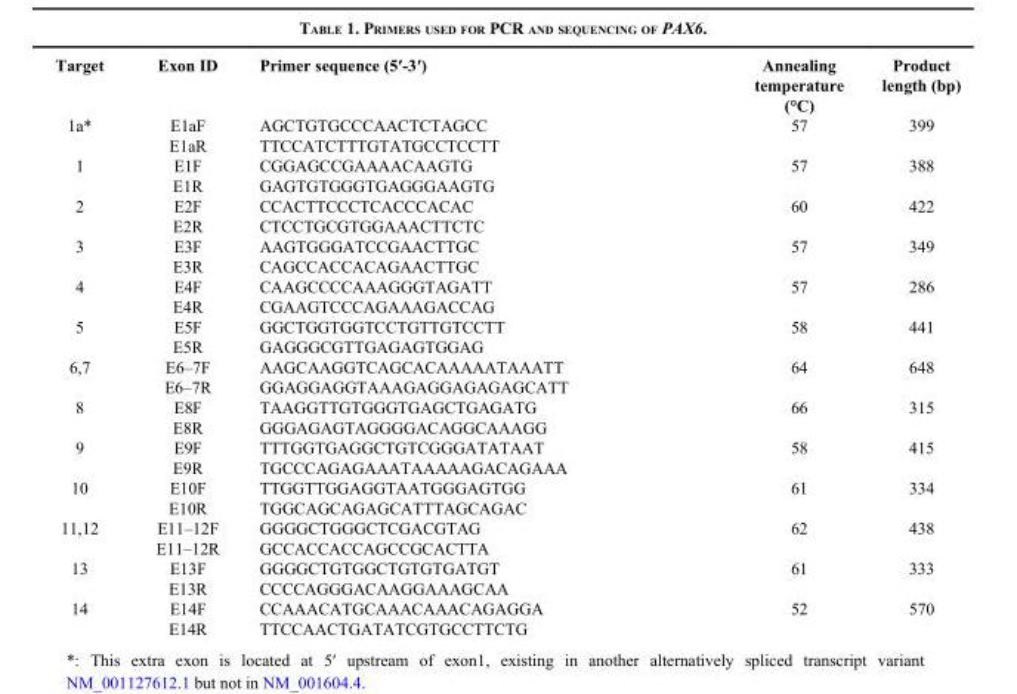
<table><thead><tr><td>Target</td><td>Exon ID</td><td>Primer sequence (5′-3′)</td><td>Annealing temperature (°C)</td><td>Product length (bp)</td></tr></thead><tbody><tr><td rowspan="2">1a*</td><td>E1aF</td><td>AGCTGTGCCCAACTCTAGCC</td><td>57</td><td>399</td></tr><tr><td>E1aR</td><td>TTCCATCTTTGTATGCCTCCTT</td><td></td><td></td></tr><tr><td rowspan="2">1</td><td>E1F</td><td>CGGAGCCGAAAACAAGTG</td><td>57</td><td>388</td></tr><tr><td>E1R</td><td>GAGTGTGGGTGAGGGAAGTG</td><td></td><td></td></tr><tr><td rowspan="2">2</td><td>E2F</td><td>CCACTTCCCTCACCCACAC</td><td>60</td><td>422</td></tr><tr><td>E2R</td><td>CTCCTGCGTGGAAACTTCTC</td><td></td><td></td></tr><tr><td rowspan="2">3</td><td>E3F</td><td>AAGTGGGATCCGAACTTGC</td><td>57</td><td>349</td></tr><tr><td>E3R</td><td>CAGCCACCACAGAACTTGC</td><td></td><td></td></tr><tr><td rowspan="2">4</td><td>E4F</td><td>CAAGCCCCAAAGGGTAGATT</td><td>57</td><td>286</td></tr><tr><td>E4R</td><td>CGAAGTCCCAGAAAGACCAG</td><td></td><td></td></tr><tr><td rowspan="2">5</td><td>E5F</td><td>GGCTGGTGGTCCTGTTGTCCTT</td><td>58</td><td>441</td></tr><tr><td>E5R</td><td>GAGGGCGTTGAGAGTGGAG</td><td></td><td></td></tr><tr><td rowspan="2">6,7</td><td>E6–7F</td><td>AAGCAAGGTCAGCACAAAAATAAATT</td><td>64</td><td>648</td></tr><tr><td>E6–7R</td><td>GGAGGAGGTAAAGAGGAGAGAGCATT</td><td></td><td></td></tr><tr><td rowspan="2">8</td><td>E8F</td><td>TAAGGTTGTGGGTGAGCTGAGATG</td><td>66</td><td>315</td></tr><tr><td>E8R</td><td>GGGAGAGTAGGGGACAGGCAAAGG</td><td></td><td></td></tr><tr><td rowspan="2">9</td><td>E9F</td><td>TTTGGTGAGGCTGTCGGGATATAAT</td><td>58</td><td>415</td></tr><tr><td>E9R</td><td>TGCCCAGAGAAATAAAAAGACAGAAA</td><td></td><td></td></tr><tr><td rowspan="2">10</td><td>E10F</td><td>TTGGTTGGAGGTAATGGGAGTGG</td><td>61</td><td>334</td></tr><tr><td>E10R</td><td>TGGCAGCAGAGCATTTAGCAGAC</td><td></td><td></td></tr><tr><td rowspan="2">11,12</td><td>E11–12F</td><td>GGGGCTGGGCTCGACGTAG</td><td>62</td><td>438</td></tr><tr><td>E11–12R</td><td>GCCACCACCAGCCGCACTTA</td><td></td><td></td></tr><tr><td rowspan="2">13</td><td>E13F</td><td>GGGGCTGTGGCTGTGTGATGT</td><td>61</td><td>333</td></tr><tr><td>E13R</td><td>CCCCAGGGACAAGGAAAGCAA</td><td></td><td></td></tr><tr><td rowspan="2">14</td><td>E14F</td><td>CCAAACATGCAAACAAACAGAGGA</td><td>52</td><td>570</td></tr><tr><td>E14R</td><td>TTCCAACTGATATCGTGCCTTCTG</td><td></td><td></td></tr></tbody></table>